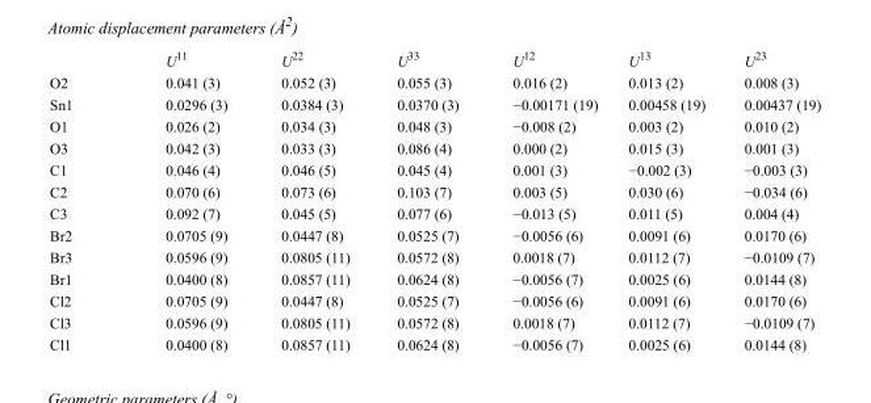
<table><thead><tr><td></td><td>U<sup>11</sup></td><td>U<sup>22</sup></td><td>U<sup>33</sup></td><td>U<sup>12</sup></td><td>U<sup>13</sup></td><td>U<sup>23</sup></td></tr></thead><tbody><tr><td>O2</td><td>0.041 (3)</td><td>0.052 (3)</td><td>0.055 (3)</td><td>0.016 (2)</td><td>0.013 (2)</td><td>0.008 (3)</td></tr><tr><td>Sn1</td><td>0.0296 (3)</td><td>0.0384 (3)</td><td>0.0370 (3)</td><td>−0.00171 (19)</td><td>0.00458 (19)</td><td>0.00437 (19)</td></tr><tr><td>O1</td><td>0.026 (2)</td><td>0.034 (3)</td><td>0.048 (3)</td><td>−0.008 (2)</td><td>0.003 (2)</td><td>0.010 (2)</td></tr><tr><td>O3</td><td>0.042 (3)</td><td>0.033 (3)</td><td>0.086 (4)</td><td>0.000 (2)</td><td>0.015 (3)</td><td>0.001 (3)</td></tr><tr><td>C1</td><td>0.046 (4)</td><td>0.046 (5)</td><td>0.045 (4)</td><td>0.001 (3)</td><td>−0.002 (3)</td><td>−0.003 (3)</td></tr><tr><td>C2</td><td>0.070 (6)</td><td>0.073 (6)</td><td>0.103 (7)</td><td>0.003 (5)</td><td>0.030 (6)</td><td>−0.034 (6)</td></tr><tr><td>C3</td><td>0.092 (7)</td><td>0.045 (5)</td><td>0.077 (6)</td><td>−0.013 (5)</td><td>0.011 (5)</td><td>0.004 (4)</td></tr><tr><td>Br2</td><td>0.0705 (9)</td><td>0.0447 (8)</td><td>0.0525 (7)</td><td>−0.0056 (6)</td><td>0.0091 (6)</td><td>0.0170 (6)</td></tr><tr><td>Br3</td><td>0.0596 (9)</td><td>0.0805 (11)</td><td>0.0572 (8)</td><td>0.0018 (7)</td><td>0.0112 (7)</td><td>−0.0109 (7)</td></tr><tr><td>Br1</td><td>0.0400 (8)</td><td>0.0857 (11)</td><td>0.0624 (8)</td><td>−0.0056 (7)</td><td>0.0025 (6)</td><td>0.0144 (8)</td></tr><tr><td>Cl2</td><td>0.0705 (9)</td><td>0.0447 (8)</td><td>0.0525 (7)</td><td>−0.0056 (6)</td><td>0.0091 (6)</td><td>0.0170 (6)</td></tr><tr><td>Cl3</td><td>0.0596 (9)</td><td>0.0805 (11)</td><td>0.0572 (8)</td><td>0.0018 (7)</td><td>0.0112 (7)</td><td>−0.0109 (7)</td></tr><tr><td>Cl1</td><td>0.0400 (8)</td><td>0.0857 (11)</td><td>0.0624 (8)</td><td>−0.0056 (7)</td><td>0.0025 (6)</td><td>0.0144 (8)</td></tr></tbody></table>